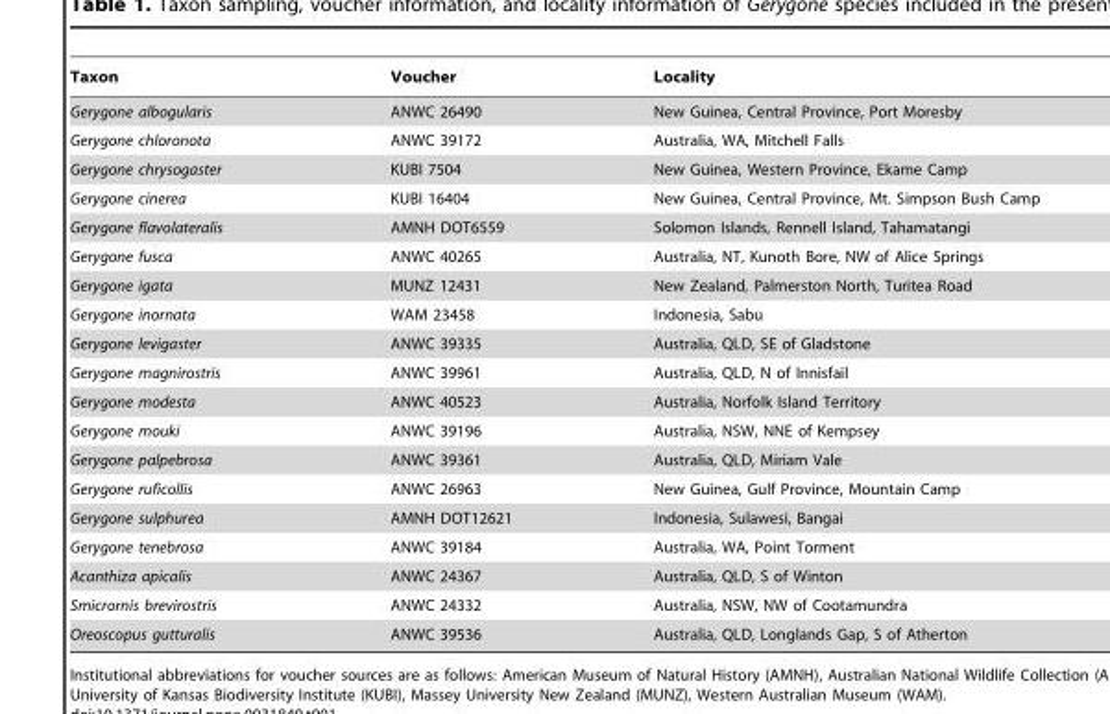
<table><thead><tr><td>Taxon</td><td>Voucher</td><td>Locality</td></tr></thead><tbody><tr><td>Gerygone albogularis</td><td>ANWC 26490</td><td>New Guinea, Central Province, Port Moresby</td></tr><tr><td>Gerygone chloronota</td><td>ANWC 39172</td><td>Australia, WA, Mitchell Falls</td></tr><tr><td>Gerygone chrysogaster</td><td>KUBI 7504</td><td>New Guinea, Western Province, Ekame Camp</td></tr><tr><td>Gerygone cinerea</td><td>KUBI 16404</td><td>New Guinea, Central Province, Mt. Simpson Bush Camp</td></tr><tr><td>Gerygone flavolateralis</td><td>AMNH DOT6559</td><td>Solomon Islands, Rennell Island, Tahamatangi</td></tr><tr><td>Gerygone fusca</td><td>ANWC 40265</td><td>Australia, NT, Kunoth Bore, NW of Alice Springs</td></tr><tr><td>Gerygone igata</td><td>MUNZ 12431</td><td>New Zealand, Palmerston North, Turitea Road</td></tr><tr><td>Gerygone inornata</td><td>WAM 23458</td><td>Indonesia, Sabu</td></tr><tr><td>Gerygone levigaster</td><td>ANWC 39335</td><td>Australia, QLD, SE of Gladstone</td></tr><tr><td>Gerygone magnirostris</td><td>ANWC 39961</td><td>Australia, QLD, N of Innisfail</td></tr><tr><td>Gerygone modesta</td><td>ANWC 40523</td><td>Australia, Norfolk Island Territory</td></tr><tr><td>Gerygone mouki</td><td>ANWC 39196</td><td>Australia, NSW, NNE of Kempsey</td></tr><tr><td>Gerygone palpebrosa</td><td>ANWC 39361</td><td>Australia, QLD, Miriam Vale</td></tr><tr><td>Gerygone ruficollis</td><td>ANWC 26963</td><td>New Guinea, Gulf Province, Mountain Camp</td></tr><tr><td>Gerygone sulphurea</td><td>AMNH DOT12621</td><td>Indonesia, Sulawesi, Bangai</td></tr><tr><td>Gerygone tenebrosa</td><td>ANWC 39184</td><td>Australia, WA, Point Torment</td></tr><tr><td>Acanthiza apicalis</td><td>ANWC 24367</td><td>Australia, QLD, S of Winton</td></tr><tr><td>Smicrornis brevirostris</td><td>ANWC 24332</td><td>Australia, NSW, NW of Cootamundra</td></tr><tr><td>Oreoscopus gutturalis</td><td>ANWC 39536</td><td>Australia, QLD, Longlands Gap, S of Atherton</td></tr></tbody></table>